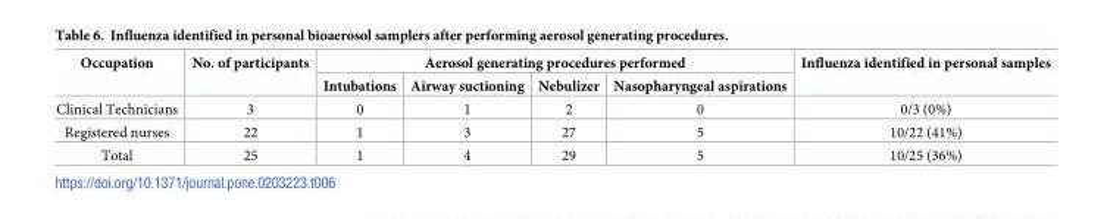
<table><thead><tr><td rowspan="2">Occupation</td><td rowspan="2">No. of participants</td><td colspan="4">Aerosol generating procedures performed</td><td rowspan="2">Influenza identified in personal samples</td></tr><tr><td>Intubations</td><td>Airway suctioning</td><td>Nebulizer</td><td>Nasopharyngeal aspirations</td></tr></thead><tbody><tr><td>Clinical Technicians</td><td>3</td><td>0</td><td>1</td><td>2</td><td>0</td><td>0/3 (0%)</td></tr><tr><td>Registered nurses</td><td>22</td><td>1</td><td>3</td><td>27</td><td>5</td><td>10/22 (41%)</td></tr><tr><td>Total</td><td>25</td><td>1</td><td>4</td><td>29</td><td>5</td><td>10/25 (36%)</td></tr></tbody></table>